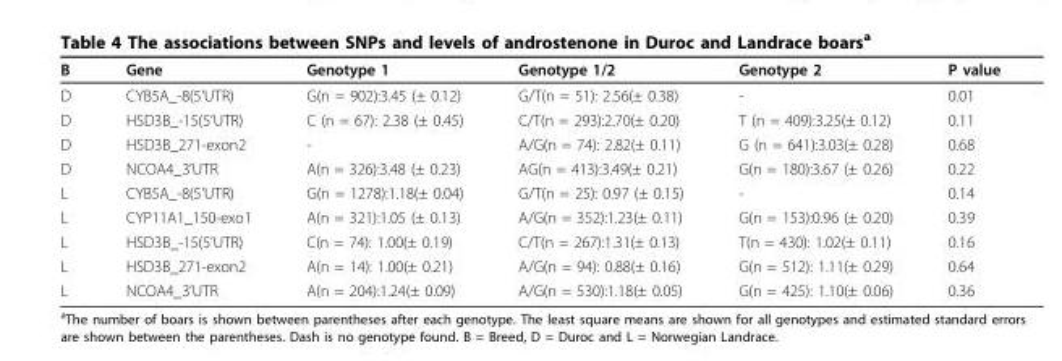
<table><thead><tr><td>B</td><td>Gene</td><td>Genotype 1</td><td>Genotype 1/2</td><td>Genotype 2</td><td>P value</td></tr></thead><tbody><tr><td>D</td><td>CYB5A_-8(5’UTR)</td><td>G(n = 902):3.45 (± 0.12)</td><td>G/T(n = 51): 2.56(± 0.38)</td><td>-</td><td>0.01</td></tr><tr><td>D</td><td>HSD3B_-15(5’UTR)</td><td>C (n = 67): 2.38 (± 0.45)</td><td>C/T(n = 293):2.70(± 0.20)</td><td>T (n = 409):3.25(± 0.12)</td><td>0.11</td></tr><tr><td>D</td><td>HSD3B_271-exon2</td><td>-</td><td>A/G(n = 74): 2.82(± 0.11)</td><td>G (n = 641):3.03(± 0.28)</td><td>0.68</td></tr><tr><td>D</td><td>NCOA4_3’UTR</td><td>A(n = 326):3.48 (± 0.23)</td><td>AG(n = 413):3.49(± 0.21)</td><td>G(n = 180):3.67 (± 0.26)</td><td>0.22</td></tr><tr><td>L</td><td>CYB5A_-8(5’UTR)</td><td>G(n = 1278):1.18(± 0.04)</td><td>G/T(n = 25): 0.97 (± 0.15)</td><td>-</td><td>0.14</td></tr><tr><td>L</td><td>CYP11A1_150-exo1</td><td>A(n = 321):1.05 (± 0.13)</td><td>A/G(n = 352):1.23(± 0.11)</td><td>G(n = 153):0.96 (± 0.20)</td><td>0.39</td></tr><tr><td>L</td><td>HSD3B_-15(5’UTR)</td><td>C(n = 74): 1.00(± 0.19)</td><td>C/T(n = 267):1.31(± 0.13)</td><td>T(n = 430): 1.02(± 0.11)</td><td>0.16</td></tr><tr><td>L</td><td>HSD3B_271-exon2</td><td>A(n = 14): 1.00(± 0.21)</td><td>A/G(n = 94): 0.88(± 0.16)</td><td>G(n = 512): 1.11(± 0.29)</td><td>0.64</td></tr><tr><td>L</td><td>NCOA4_3’UTR</td><td>A(n = 204):1.24(± 0.09)</td><td>A/G(n = 530):1.18(± 0.05)</td><td>G(n = 425): 1.10(± 0.06)</td><td>0.36</td></tr></tbody></table>